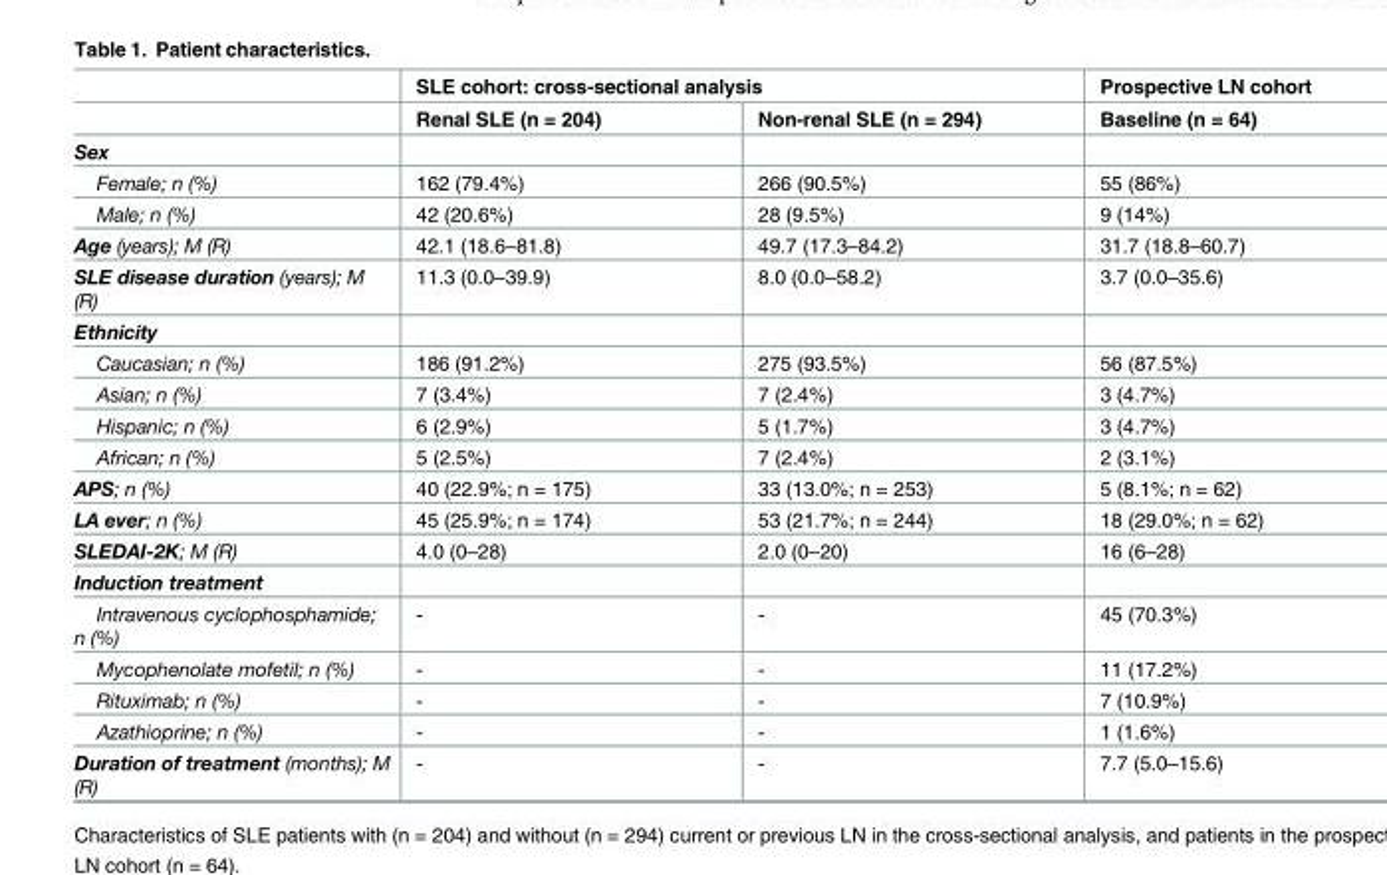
<table><thead><tr><td rowspan="2"></td><td colspan="2">SLE cohort: cross-sectional analysis</td><td rowspan="2">Prospective LN cohort Baseline (n = 64)</td></tr><tr><td>Renal SLE (n = 204)</td><td>Non-renal SLE (n = 294)</td></tr></thead><tbody><tr><td colspan="4">Sex</td></tr><tr><td>Female; n (%)</td><td>162 (79.4%)</td><td>266 (90.5%)</td><td>55 (86%)</td></tr><tr><td>Male; n (%)</td><td>42 (20.6%)</td><td>28 (9.5%)</td><td>9 (14%)</td></tr><tr><td>Age (years); M (R)</td><td>42.1 (18.6–81.8)</td><td>49.7 (17.3–84.2)</td><td>31.7 (18.8–60.7)</td></tr><tr><td>SLE disease duration (years); M (R)</td><td>11.3 (0.0–39.9)</td><td>8.0 (0.0–58.2)</td><td>3.7 (0.0–35.6)</td></tr><tr><td colspan="4">Ethnicity</td></tr><tr><td>Caucasian; n (%)</td><td>186 (91.2%)</td><td>275 (93.5%)</td><td>56 (87.5%)</td></tr><tr><td>Asian; n (%)</td><td>7 (3.4%)</td><td>7 (2.4%)</td><td>3 (4.7%)</td></tr><tr><td>Hispanic; n (%)</td><td>6 (2.9%)</td><td>5 (1.7%)</td><td>3 (4.7%)</td></tr><tr><td>African; n (%)</td><td>5 (2.5%)</td><td>7 (2.4%)</td><td>2 (3.1%)</td></tr><tr><td>APS; n (%)</td><td>40 (22.9%; n = 175)</td><td>33 (13.0%; n = 253)</td><td>5 (8.1%; n = 62)</td></tr><tr><td>LA ever; n (%)</td><td>45 (25.9%; n = 174)</td><td>53 (21.7%; n = 244)</td><td>18 (29.0%; n = 62)</td></tr><tr><td>SLEDAI-2K; M (R)</td><td>4.0 (0–28)</td><td>2.0 (0–20)</td><td>16 (6–28)</td></tr><tr><td colspan="4">Induction treatment</td></tr><tr><td>Intravenous cyclophosphamide; n (%)</td><td>-</td><td>-</td><td>45 (70.3%)</td></tr><tr><td>Mycophenolate mofetil; n (%)</td><td>-</td><td>-</td><td>11 (17.2%)</td></tr><tr><td>Rituximab; n (%)</td><td>-</td><td>-</td><td>7 (10.9%)</td></tr><tr><td>Azathioprine; n (%)</td><td>-</td><td>-</td><td>1 (1.6%)</td></tr><tr><td>Duration of treatment (months); M (R)</td><td>-</td><td>-</td><td>7.7 (5.0–15.6)</td></tr></tbody></table>